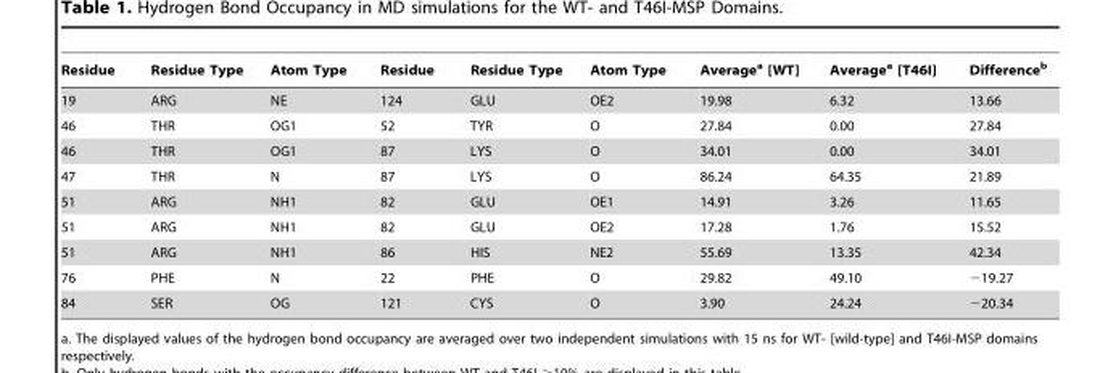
<table><thead><tr><td>Residue</td><td>Residue Type</td><td>Atom Type</td><td>Residue</td><td>Residue Type</td><td>Atom Type</td><td>Average<sup>a</sup> [WT]</td><td>Average<sup>a</sup> [T46I]</td><td>Difference<sup>b</sup></td></tr></thead><tbody><tr><td>19</td><td>ARG</td><td>NE</td><td>124</td><td>GLU</td><td>OE2</td><td>19.98</td><td>6.32</td><td>13.66</td></tr><tr><td>46</td><td>THR</td><td>OG1</td><td>52</td><td>TYR</td><td>O</td><td>27.84</td><td>0.00</td><td>27.84</td></tr><tr><td>46</td><td>THR</td><td>OG1</td><td>87</td><td>LYS</td><td>O</td><td>34.01</td><td>0.00</td><td>34.01</td></tr><tr><td>47</td><td>THR</td><td>N</td><td>87</td><td>LYS</td><td>O</td><td>86.24</td><td>64.35</td><td>21.89</td></tr><tr><td>51</td><td>ARG</td><td>NH1</td><td>82</td><td>GLU</td><td>OE1</td><td>14.91</td><td>3.26</td><td>11.65</td></tr><tr><td>51</td><td>ARG</td><td>NH1</td><td>82</td><td>GLU</td><td>OE2</td><td>17.28</td><td>1.76</td><td>15.52</td></tr><tr><td>51</td><td>ARG</td><td>NH1</td><td>86</td><td>HIS</td><td>NE2</td><td>55.69</td><td>13.35</td><td>42.34</td></tr><tr><td>76</td><td>PHE</td><td>N</td><td>22</td><td>PHE</td><td>O</td><td>29.82</td><td>49.10</td><td>−19.27</td></tr><tr><td>84</td><td>SER</td><td>OG</td><td>121</td><td>CYS</td><td>O</td><td>3.90</td><td>24.24</td><td>−20.34</td></tr></tbody></table>